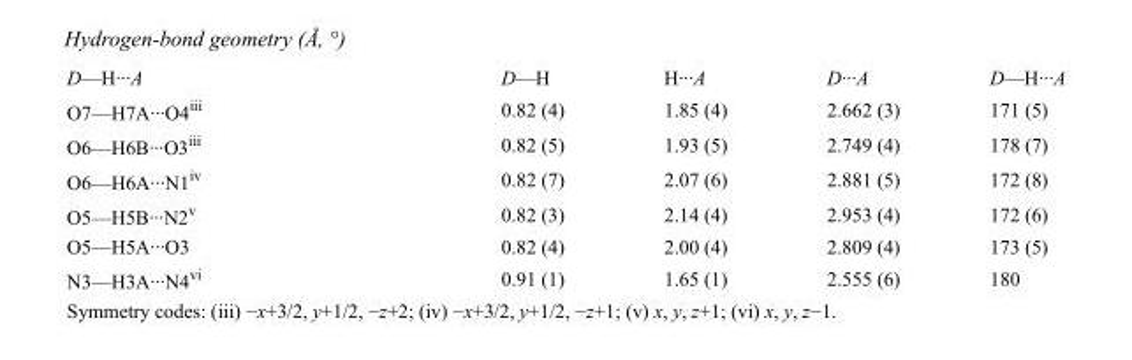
<table><tbody><tr><td>D—H···A</td><td>D—H</td><td>H···A</td><td>D···A</td><td>D—H···A</td></tr><tr><td>O7—H7A···O4<sup>iii</sup></td><td>0.82 (4)</td><td>1.85 (4)</td><td>2.662 (3)</td><td>171 (5)</td></tr><tr><td>O6—H6B···O3<sup>iii</sup></td><td>0.82 (5)</td><td>1.93 (5)</td><td>2.749 (4)</td><td>178 (7)</td></tr><tr><td>O6—H6A···N1<sup>iv</sup></td><td>0.82 (7)</td><td>2.07 (6)</td><td>2.881 (5)</td><td>172 (8)</td></tr><tr><td>O5—H5B···N2<sup>v</sup></td><td>0.82 (3)</td><td>2.14 (4)</td><td>2.953 (4)</td><td>172 (6)</td></tr><tr><td>O5—H5A···O3</td><td>0.82 (4)</td><td>2.00 (4)</td><td>2.809 (4)</td><td>173 (5)</td></tr><tr><td>N3—H3A···N4<sup>vi</sup></td><td>0.91 (1)</td><td>1.65 (1)</td><td>2.555 (6)</td><td>180</td></tr></tbody></table>